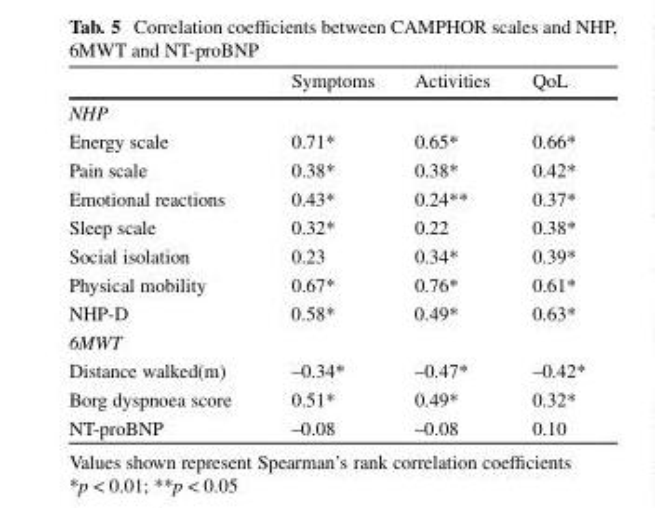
<table><thead><tr><td></td><td>Symptoms</td><td>Activities</td><td>QoL</td></tr></thead><tbody><tr><td colspan="4">NHP</td></tr><tr><td>Energy scale</td><td>0.71*</td><td>0.65*</td><td>0.66*</td></tr><tr><td>Pain scale</td><td>0.38*</td><td>0.38*</td><td>0.42*</td></tr><tr><td>Emotional reactions</td><td>0.43*</td><td>0.24**</td><td>0.37*</td></tr><tr><td>Sleep scale</td><td>0.32*</td><td>0.22</td><td>0.38*</td></tr><tr><td>Social isolation</td><td>0.23</td><td>0.34*</td><td>0.39*</td></tr><tr><td>Physical mobility</td><td>0.67*</td><td>0.76*</td><td>0.61*</td></tr><tr><td>NHP-D</td><td>0.58*</td><td>0.49*</td><td>0.63*</td></tr><tr><td colspan="4">6MWT</td></tr><tr><td>Distance walked(m)</td><td>–0.34*</td><td>–0.47*</td><td>–0.42*</td></tr><tr><td>Borg dyspnoea score</td><td>0.51*</td><td>0.49*</td><td>0.32*</td></tr><tr><td>NT-proBNP</td><td>–0.08</td><td>–0.08</td><td>0.10</td></tr></tbody></table>